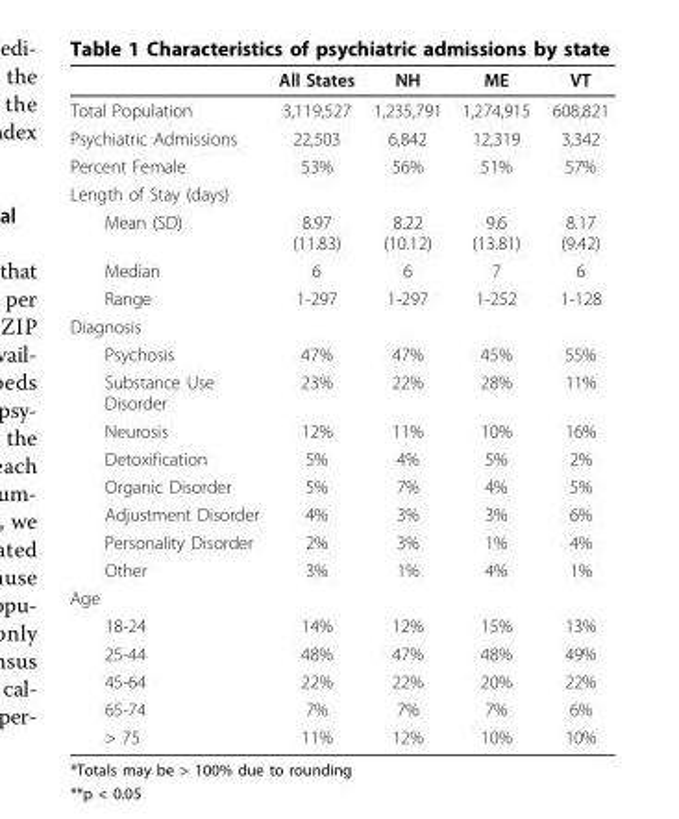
<table><thead><tr><td></td><td>All States</td><td>NH</td><td>ME</td><td>VT</td></tr></thead><tbody><tr><td>Total Population</td><td>3,119,527</td><td>1,235,791</td><td>1,274,915</td><td>608,821</td></tr><tr><td>Psychiatric Admissions</td><td>22,503</td><td>6,842</td><td>12,319</td><td>3,342</td></tr><tr><td>Percent Female</td><td>53%</td><td>56%</td><td>51%</td><td>57%</td></tr><tr><td colspan="5">Length of Stay (days)</td></tr><tr><td>Mean (SD)</td><td>8.97 (11.83)</td><td>8.22 (10.12)</td><td>9.6 (13.81)</td><td>8.17 (9.42)</td></tr><tr><td>Median</td><td>6</td><td>6</td><td>7</td><td>6</td></tr><tr><td>Range</td><td>1-297</td><td>1-297</td><td>1-252</td><td>1-128</td></tr><tr><td colspan="5">Diagnosis</td></tr><tr><td>Psychosis</td><td>47%</td><td>47%</td><td>45%</td><td>55%</td></tr><tr><td>Substance Use Disorder</td><td>23%</td><td>22%</td><td>28%</td><td>11%</td></tr><tr><td>Neurosis</td><td>12%</td><td>11%</td><td>10%</td><td>16%</td></tr><tr><td>Detoxification</td><td>5%</td><td>4%</td><td>5%</td><td>2%</td></tr><tr><td>Organic Disorder</td><td>5%</td><td>7%</td><td>4%</td><td>5%</td></tr><tr><td>Adjustment Disorder</td><td>4%</td><td>3%</td><td>3%</td><td>6%</td></tr><tr><td>Personality Disorder</td><td>2%</td><td>3%</td><td>1%</td><td>4%</td></tr><tr><td>Other</td><td>3%</td><td>1%</td><td>4%</td><td>1%</td></tr><tr><td colspan="5">Age</td></tr><tr><td>18-24</td><td>14%</td><td>12%</td><td>15%</td><td>13%</td></tr><tr><td>25-44</td><td>48%</td><td>47%</td><td>48%</td><td>49%</td></tr><tr><td>45-64</td><td>22%</td><td>22%</td><td>20%</td><td>22%</td></tr><tr><td>65-74</td><td>7%</td><td>7%</td><td>7%</td><td>6%</td></tr><tr><td>&gt; 75</td><td>11%</td><td>12%</td><td>10%</td><td>10%</td></tr></tbody></table>